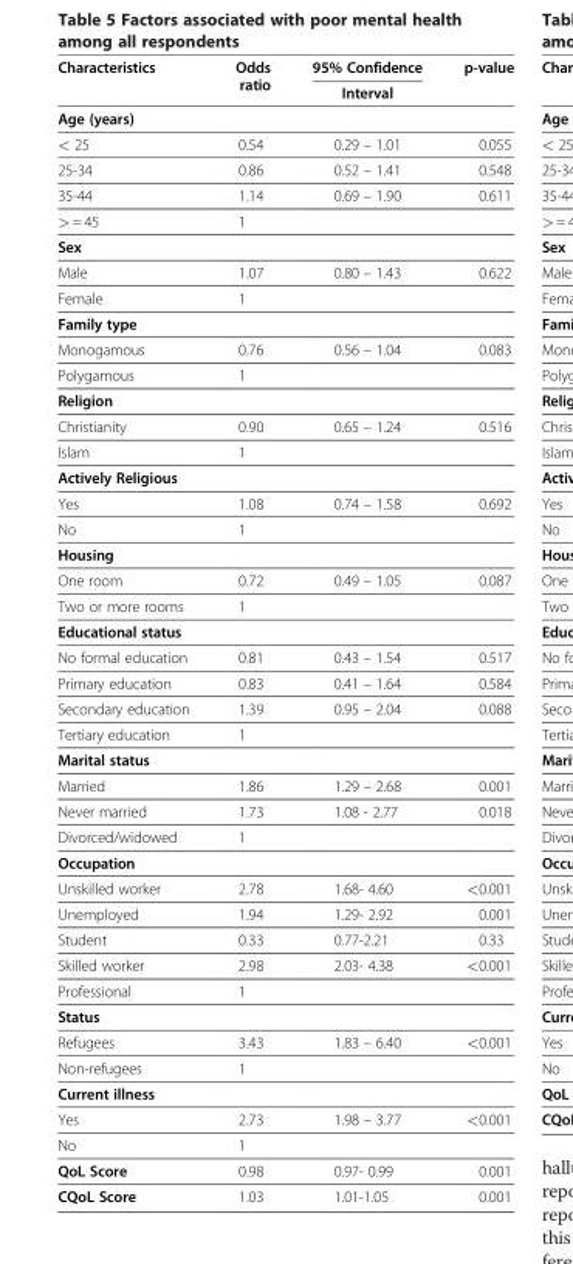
<table><thead><tr><td rowspan="2">Characteristics</td><td rowspan="2">Odds ratio</td><td rowspan="2">95% Confidence Interval</td><td rowspan="2">p-value</td></tr><tr></tr></thead><tbody><tr><td colspan="4">Age (years)</td></tr><tr><td>&lt; 25</td><td>0.54</td><td>0.29 – 1.01</td><td>0.055</td></tr><tr><td>25-34</td><td>0.86</td><td>0.52 – 1.41</td><td>0.548</td></tr><tr><td>35-44</td><td>1.14</td><td>0.69 – 1.90</td><td>0.611</td></tr><tr><td>&gt; = 45</td><td>1</td><td></td><td></td></tr><tr><td colspan="4">Sex</td></tr><tr><td>Male</td><td>1.07</td><td>0.80 – 1.43</td><td>0.622</td></tr><tr><td>Female</td><td>1</td><td></td><td></td></tr><tr><td colspan="4">Family type</td></tr><tr><td>Monogamous</td><td>0.76</td><td>0.56 – 1.04</td><td>0.083</td></tr><tr><td>Polygamous</td><td>1</td><td></td><td></td></tr><tr><td colspan="4">Religion</td></tr><tr><td>Christianity</td><td>0.90</td><td>0.65 – 1.24</td><td>0.516</td></tr><tr><td>Islam</td><td>1</td><td></td><td></td></tr><tr><td colspan="4">Actively Religious</td></tr><tr><td>Yes</td><td>1.08</td><td>0.74 – 1.58</td><td>0.692</td></tr><tr><td>No</td><td>1</td><td></td><td></td></tr><tr><td colspan="4">Housing</td></tr><tr><td>One room</td><td>0.72</td><td>0.49 – 1.05</td><td>0.087</td></tr><tr><td>Two or more rooms</td><td>1</td><td></td><td></td></tr><tr><td colspan="4">Educational status</td></tr><tr><td>No formal education</td><td>0.81</td><td>0.43 – 1.54</td><td>0.517</td></tr><tr><td>Primary education</td><td>0.83</td><td>0.41 – 1.64</td><td>0.584</td></tr><tr><td>Secondary education</td><td>1.39</td><td>0.95 – 2.04</td><td>0.088</td></tr><tr><td>Tertiary education</td><td>1</td><td></td><td></td></tr><tr><td colspan="4">Marital status</td></tr><tr><td>Married</td><td>1.86</td><td>1.29 – 2.68</td><td>0.001</td></tr><tr><td>Never married</td><td>1.73</td><td>1.08 - 2.77</td><td>0.018</td></tr><tr><td>Divorced/widowed</td><td>1</td><td></td><td></td></tr><tr><td colspan="4">Occupation</td></tr><tr><td>Unskilled worker</td><td>2.78</td><td>1.68- 4.60</td><td>&lt;0.001</td></tr><tr><td>Unemployed</td><td>1.94</td><td>1.29- 2.92</td><td>0.001</td></tr><tr><td>Student</td><td>0.33</td><td>0.77-2.21</td><td>0.33</td></tr><tr><td>Skilled worker</td><td>2.98</td><td>2.03- 4.38</td><td>&lt;0.001</td></tr><tr><td>Professional</td><td>1</td><td></td><td></td></tr><tr><td colspan="4">Status</td></tr><tr><td>Refugees</td><td>3.43</td><td>1.83 – 6.40</td><td>&lt;0.001</td></tr><tr><td>Non-refugees</td><td>1</td><td></td><td></td></tr><tr><td colspan="4">Current illness</td></tr><tr><td>Yes</td><td>2.73</td><td>1.98 – 3.77</td><td>&lt;0.001</td></tr><tr><td>No</td><td>1</td><td></td><td></td></tr><tr><td>QoL Score</td><td>0.98</td><td>0.97- 0.99</td><td>0.001</td></tr><tr><td>CQoL Score</td><td>1.03</td><td>1.01-1.05</td><td>0.001</td></tr></tbody></table>